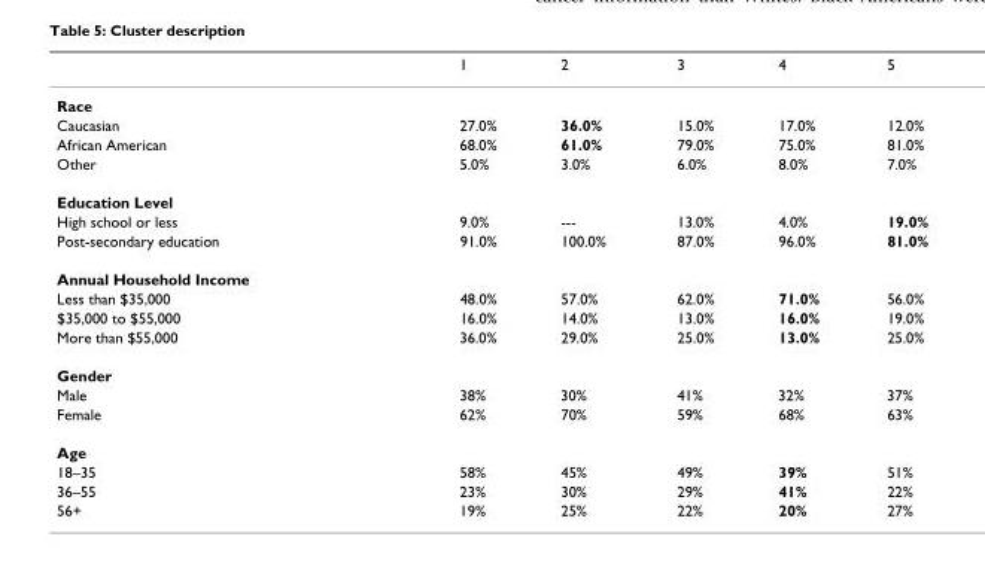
<table><thead><tr><td></td><td>1</td><td>2</td><td>3</td><td>4</td><td>5</td></tr></thead><tbody><tr><td colspan="6">Race</td></tr><tr><td>Caucasian</td><td>27.0%</td><td>36.0%</td><td>15.0%</td><td>17.0%</td><td>12.0%</td></tr><tr><td>African American</td><td>68.0%</td><td>61.0%</td><td>79.0%</td><td>75.0%</td><td>81.0%</td></tr><tr><td>Other</td><td>5.0%</td><td>3.0%</td><td>6.0%</td><td>8.0%</td><td>7.0%</td></tr><tr><td colspan="6">Education Level</td></tr><tr><td>High school or less</td><td>9.0%</td><td>---</td><td>13.0%</td><td>4.0%</td><td>19.0%</td></tr><tr><td>Post-secondary education</td><td>91.0%</td><td>100.0%</td><td>87.0%</td><td>96.0%</td><td>81.0%</td></tr><tr><td colspan="6">Annual Household Income</td></tr><tr><td>Less than $35,000</td><td>48.0%</td><td>57.0%</td><td>62.0%</td><td>71.0%</td><td>56.0%</td></tr><tr><td>$35,000 to $55,000</td><td>16.0%</td><td>14.0%</td><td>13.0%</td><td>16.0%</td><td>19.0%</td></tr><tr><td>More than $55,000</td><td>36.0%</td><td>29.0%</td><td>25.0%</td><td>13.0%</td><td>25.0%</td></tr><tr><td colspan="6">Gender</td></tr><tr><td>Male</td><td>38%</td><td>30%</td><td>41%</td><td>32%</td><td>37%</td></tr><tr><td>Female</td><td>62%</td><td>70%</td><td>59%</td><td>68%</td><td>63%</td></tr><tr><td colspan="6">Age</td></tr><tr><td>18–35</td><td>58%</td><td>45%</td><td>49%</td><td>39%</td><td>51%</td></tr><tr><td>36–55</td><td>23%</td><td>30%</td><td>29%</td><td>41%</td><td>22%</td></tr><tr><td>56+</td><td>19%</td><td>25%</td><td>22%</td><td>20%</td><td>27%</td></tr></tbody></table>